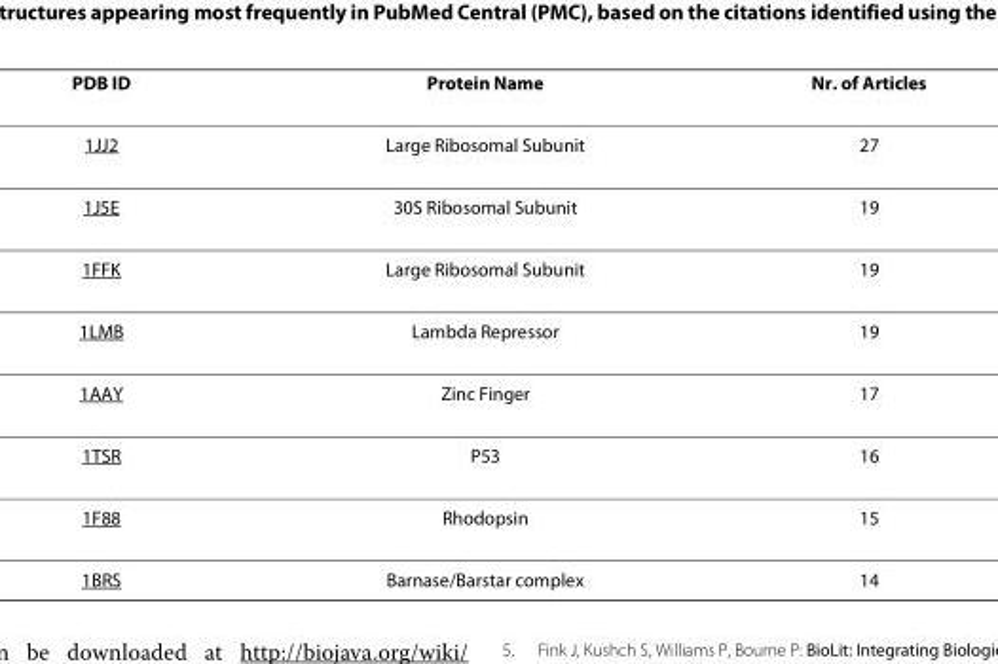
<table><thead><tr><td>PDB ID</td><td>Protein Name</td><td>Nr. of Articles</td></tr></thead><tbody><tr><td>1JJ2</td><td>Large Ribosomal Subunit</td><td>27</td></tr><tr><td>1J5E</td><td>30S Ribosomal Subunit</td><td>19</td></tr><tr><td>1FFK</td><td>Large Ribosomal Subunit</td><td>19</td></tr><tr><td>1LMB</td><td>Lambda Repressor</td><td>19</td></tr><tr><td>1AAY</td><td>Zinc Finger</td><td>17</td></tr><tr><td>1TSR</td><td>P53</td><td>16</td></tr><tr><td>1F88</td><td>Rhodopsin</td><td>15</td></tr><tr><td>1BRS</td><td>Barnase/Barstar complex</td><td>14</td></tr></tbody></table>